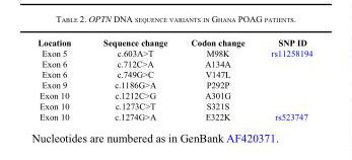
<table><thead><tr><td>Location</td><td>Sequence change</td><td>Codon change</td><td>SNP ID</td></tr></thead><tbody><tr><td>Exon 5</td><td>c.603A&gt;T</td><td>M98K</td><td>rs11258194</td></tr><tr><td>Exon 6</td><td>c.712C&gt;A</td><td>A134A</td><td></td></tr><tr><td>Exon 6</td><td>c.749G&gt;C</td><td>V147L</td><td></td></tr><tr><td>Exon 9</td><td>c.1186G&gt;A</td><td>P292P</td><td></td></tr><tr><td>Exon 10</td><td>c.1212C&gt;G</td><td>A301G</td><td></td></tr><tr><td>Exon 10</td><td>c.1273C&gt;T</td><td>S321S</td><td></td></tr><tr><td>Exon 10</td><td>c.1274G&gt;A</td><td>E322K</td><td>rs523747</td></tr></tbody></table>